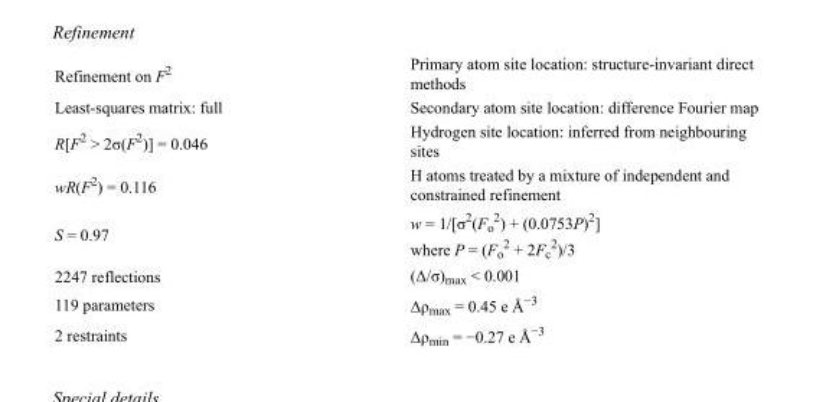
<table><tbody><tr><td>Refinement on F<sup>2</sup></td><td>Primary atom site location: structure-invariant direct methods</td></tr><tr><td>Least-squares matrix: full</td><td>Secondary atom site location: difference Fourier map</td></tr><tr><td>R[F<sup>2</sup> &gt; 2σ(F<sup>2</sup>)] = 0.046</td><td>Hydrogen site location: inferred from neighbouring sites</td></tr><tr><td>wR(F<sup>2</sup>) = 0.116</td><td>H atoms treated by a mixture of independent and constrained refinement</td></tr><tr><td>S = 0.97</td><td>w = 1/[σ<sup>2</sup>(F<sub>o</sub> <sup>2</sup>) + (0.0753P)<sup>2</sup>] where P = (F<sub>o</sub> <sup>2</sup> + 2F<sub>c</sub> <sup>2</sup>)/3</td></tr><tr><td>2247 reflections</td><td>(Δ/σ)<sub>max</sub> &lt; 0.001</td></tr><tr><td>119 parameters</td><td>Δρ<sub>max</sub> = 0.45 e Å<sup>−3</sup></td></tr><tr><td>2 restraints</td><td>Δρ<sub>min</sub> = −0.27 e Å<sup>−3</sup></td></tr></tbody></table>